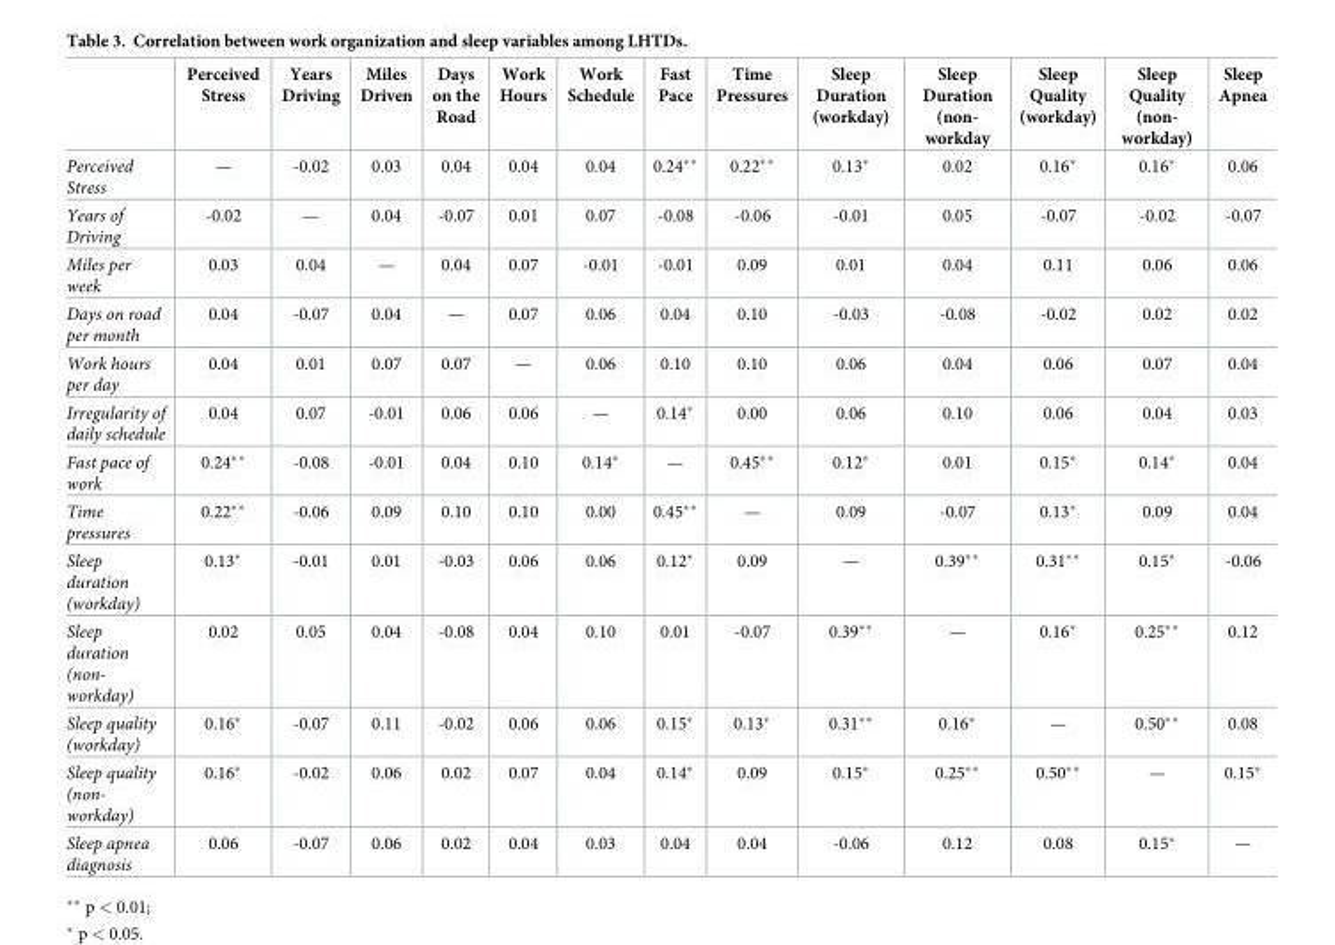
<table><thead><tr><td></td><td>Perceived Stress</td><td>Years Driving</td><td>Miles Driven</td><td>Days on the Road</td><td>Work Hours</td><td>Work Schedule</td><td>Fast Pace</td><td>Time Pressures</td><td>Sleep Duration (workday)</td><td>Sleep Duration (non- workday</td><td>Sleep Quality (workday)</td><td>Sleep Quality (non- workday)</td><td>Sleep Apnea</td></tr></thead><tbody><tr><td>Perceived Stress</td><td>—</td><td>-0.02</td><td>0.03</td><td>0.04</td><td>0.04</td><td>0.04</td><td>0.24**</td><td>0.22**</td><td>0.13*</td><td>0.02</td><td>0.16*</td><td>0.16*</td><td>0.06</td></tr><tr><td>Years of Driving</td><td>-0.02</td><td>—</td><td>0.04</td><td>-0.07</td><td>0.01</td><td>0.07</td><td>-0.08</td><td>-0.06</td><td>-0.01</td><td>0.05</td><td>-0.07</td><td>-0.02</td><td>-0.07</td></tr><tr><td>Miles per week</td><td>0.03</td><td>0.04</td><td>—</td><td>0.04</td><td>0.07</td><td>-0.01</td><td>-0.01</td><td>0.09</td><td>0.01</td><td>0.04</td><td>0.11</td><td>0.06</td><td>0.06</td></tr><tr><td>Days on road per month</td><td>0.04</td><td>-0.07</td><td>0.04</td><td>—</td><td>0.07</td><td>0.06</td><td>0.04</td><td>0.10</td><td>-0.03</td><td>-0.08</td><td>-0.02</td><td>0.02</td><td>0.02</td></tr><tr><td>Work hours per day</td><td>0.04</td><td>0.01</td><td>0.07</td><td>0.07</td><td>—</td><td>0.06</td><td>0.10</td><td>0.10</td><td>0.06</td><td>0.04</td><td>0.06</td><td>0.07</td><td>0.04</td></tr><tr><td>Irregularity of daily schedule</td><td>0.04</td><td>0.07</td><td>-0.01</td><td>0.06</td><td>0.06</td><td>—</td><td>0.14*</td><td>0.00</td><td>0.06</td><td>0.10</td><td>0.06</td><td>0.04</td><td>0.03</td></tr><tr><td>Fast pace of work</td><td>0.24**</td><td>-0.08</td><td>-0.01</td><td>0.04</td><td>0.10</td><td>0.14*</td><td>—</td><td>0.45**</td><td>0.12*</td><td>0.01</td><td>0.15*</td><td>0.14*</td><td>0.04</td></tr><tr><td>Time pressures</td><td>0.22**</td><td>-0.06</td><td>0.09</td><td>0.10</td><td>0.10</td><td>0.00</td><td>0.45**</td><td>—</td><td>0.09</td><td>-0.07</td><td>0.13*</td><td>0.09</td><td>0.04</td></tr><tr><td>Sleep duration (workday)</td><td>0.13*</td><td>-0.01</td><td>0.01</td><td>-0.03</td><td>0.06</td><td>0.06</td><td>0.12*</td><td>0.09</td><td>—</td><td>0.39**</td><td>0.31**</td><td>0.15*</td><td>-0.06</td></tr><tr><td>Sleep duration (non- workday)</td><td>0.02</td><td>0.05</td><td>0.04</td><td>-0.08</td><td>0.04</td><td>0.10</td><td>0.01</td><td>-0.07</td><td>0.39**</td><td>—</td><td>0.16*</td><td>0.25**</td><td>0.12</td></tr><tr><td>Sleep quality (workday)</td><td>0.16*</td><td>-0.07</td><td>0.11</td><td>-0.02</td><td>0.06</td><td>0.06</td><td>0.15*</td><td>0.13*</td><td>0.31**</td><td>0.16*</td><td>—</td><td>0.50**</td><td>0.08</td></tr><tr><td>Sleep quality (non- workday)</td><td>0.16*</td><td>-0.02</td><td>0.06</td><td>0.02</td><td>0.07</td><td>0.04</td><td>0.14*</td><td>0.09</td><td>0.15*</td><td>0.25**</td><td>0.50**</td><td>—</td><td>0.15*</td></tr><tr><td>Sleep apnea diagnosis</td><td>0.06</td><td>-0.07</td><td>0.06</td><td>0.02</td><td>0.04</td><td>0.03</td><td>0.04</td><td>0.04</td><td>-0.06</td><td>0.12</td><td>0.08</td><td>0.15*</td><td>—</td></tr></tbody></table>